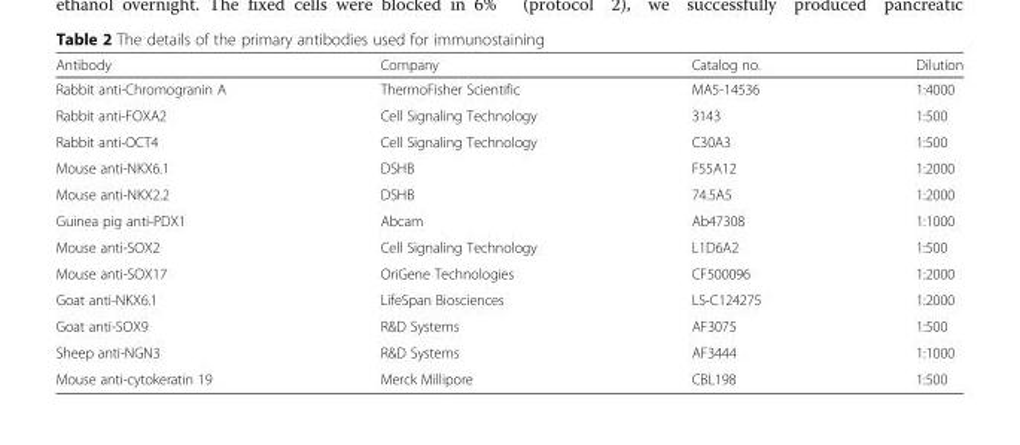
<table><thead><tr><td>Antibody</td><td>Company</td><td>Catalog no.</td><td>Dilution</td></tr></thead><tbody><tr><td>Rabbit anti-Chromogranin A</td><td>ThermoFisher Scientific</td><td>MA5-14536</td><td>1:4000</td></tr><tr><td>Rabbit anti-FOXA2</td><td>Cell Signaling Technology</td><td>3143</td><td>1:500</td></tr><tr><td>Rabbit anti-OCT4</td><td>Cell Signaling Technology</td><td>C30A3</td><td>1:500</td></tr><tr><td>Mouse anti-NKX6.1</td><td>DSHB</td><td>F55A12</td><td>1:2000</td></tr><tr><td>Mouse anti-NKX2.2</td><td>DSHB</td><td>74.5A5</td><td>1:2000</td></tr><tr><td>Guinea pig anti-PDX1</td><td>Abcam</td><td>Ab47308</td><td>1:1000</td></tr><tr><td>Mouse anti-SOX2</td><td>Cell Signaling Technology</td><td>L1D6A2</td><td>1:500</td></tr><tr><td>Mouse anti-SOX17</td><td>OriGene Technologies</td><td>CF500096</td><td>1:2000</td></tr><tr><td>Goat anti-NKX6.1</td><td>LifeSpan Biosciences</td><td>LS-C124275</td><td>1:2000</td></tr><tr><td>Goat anti-SOX9</td><td>R&amp;D Systems</td><td>AF3075</td><td>1:500</td></tr><tr><td>Sheep anti-NGN3</td><td>R&amp;D Systems</td><td>AF3444</td><td>1:1000</td></tr><tr><td>Mouse anti-cytokeratin 19</td><td>Merck Millipore</td><td>CBL198</td><td>1:500</td></tr></tbody></table>